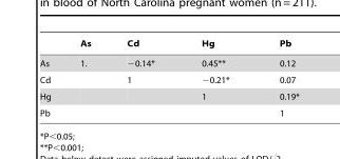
<table><thead><tr><td></td><td>As</td><td>Cd</td><td>Hg</td><td>Pb</td></tr></thead><tbody><tr><td>As</td><td>1.</td><td>−0.14*</td><td>0.45**</td><td>0.12</td></tr><tr><td>Cd</td><td></td><td>1</td><td>−0.21*</td><td>0.07</td></tr><tr><td>Hg</td><td></td><td></td><td>1</td><td>0.19*</td></tr><tr><td>Pb</td><td></td><td></td><td></td><td>1</td></tr></tbody></table>